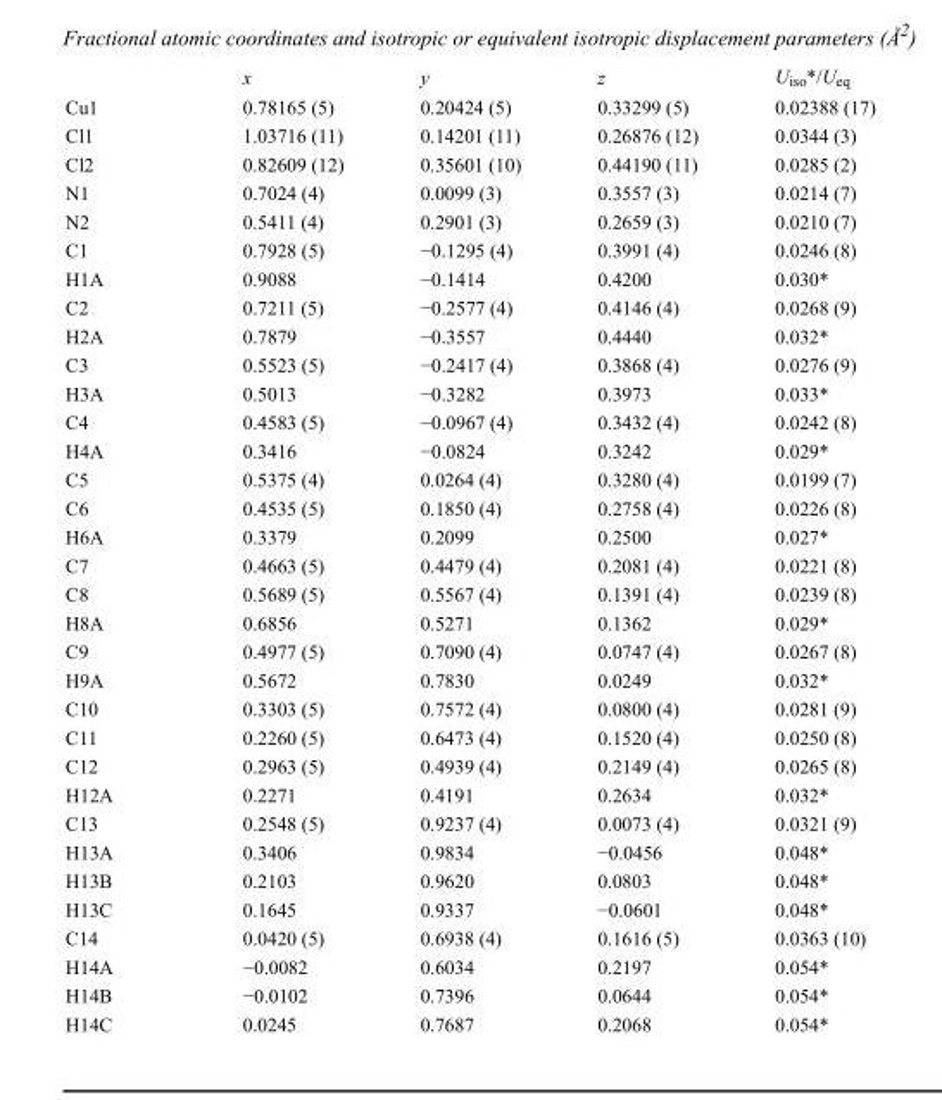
<table><thead><tr><td></td><td>x</td><td>y</td><td>z</td><td>U<sub>iso</sub>*/U<sub>eq</sub></td></tr></thead><tbody><tr><td>Cu1</td><td>0.78165 (5)</td><td>0.20424 (5)</td><td>0.33299 (5)</td><td>0.02388 (17)</td></tr><tr><td>Cl1</td><td>1.03716 (11)</td><td>0.14201 (11)</td><td>0.26876 (12)</td><td>0.0344 (3)</td></tr><tr><td>Cl2</td><td>0.82609 (12)</td><td>0.35601 (10)</td><td>0.44190 (11)</td><td>0.0285 (2)</td></tr><tr><td>N1</td><td>0.7024 (4)</td><td>0.0099 (3)</td><td>0.3557 (3)</td><td>0.0214 (7)</td></tr><tr><td>N2</td><td>0.5411 (4)</td><td>0.2901 (3)</td><td>0.2659 (3)</td><td>0.0210 (7)</td></tr><tr><td>C1</td><td>0.7928 (5)</td><td>−0.1295 (4)</td><td>0.3991 (4)</td><td>0.0246 (8)</td></tr><tr><td>H1A</td><td>0.9088</td><td>−0.1414</td><td>0.4200</td><td>0.030*</td></tr><tr><td>C2</td><td>0.7211 (5)</td><td>−0.2577 (4)</td><td>0.4146 (4)</td><td>0.0268 (9)</td></tr><tr><td>H2A</td><td>0.7879</td><td>−0.3557</td><td>0.4440</td><td>0.032*</td></tr><tr><td>C3</td><td>0.5523 (5)</td><td>−0.2417 (4)</td><td>0.3868 (4)</td><td>0.0276 (9)</td></tr><tr><td>H3A</td><td>0.5013</td><td>−0.3282</td><td>0.3973</td><td>0.033*</td></tr><tr><td>C4</td><td>0.4583 (5)</td><td>−0.0967 (4)</td><td>0.3432 (4)</td><td>0.0242 (8)</td></tr><tr><td>H4A</td><td>0.3416</td><td>−0.0824</td><td>0.3242</td><td>0.029*</td></tr><tr><td>C5</td><td>0.5375 (4)</td><td>0.0264 (4)</td><td>0.3280 (4)</td><td>0.0199 (7)</td></tr><tr><td>C6</td><td>0.4535 (5)</td><td>0.1850 (4)</td><td>0.2758 (4)</td><td>0.0226 (8)</td></tr><tr><td>H6A</td><td>0.3379</td><td>0.2099</td><td>0.2500</td><td>0.027*</td></tr><tr><td>C7</td><td>0.4663 (5)</td><td>0.4479 (4)</td><td>0.2081 (4)</td><td>0.0221 (8)</td></tr><tr><td>C8</td><td>0.5689 (5)</td><td>0.5567 (4)</td><td>0.1391 (4)</td><td>0.0239 (8)</td></tr><tr><td>H8A</td><td>0.6856</td><td>0.5271</td><td>0.1362</td><td>0.029*</td></tr><tr><td>C9</td><td>0.4977 (5)</td><td>0.7090 (4)</td><td>0.0747 (4)</td><td>0.0267 (8)</td></tr><tr><td>H9A</td><td>0.5672</td><td>0.7830</td><td>0.0249</td><td>0.032*</td></tr><tr><td>C10</td><td>0.3303 (5)</td><td>0.7572 (4)</td><td>0.0800 (4)</td><td>0.0281 (9)</td></tr><tr><td>C11</td><td>0.2260 (5)</td><td>0.6473 (4)</td><td>0.1520 (4)</td><td>0.0250 (8)</td></tr><tr><td>C12</td><td>0.2963 (5)</td><td>0.4939 (4)</td><td>0.2149 (4)</td><td>0.0265 (8)</td></tr><tr><td>H12A</td><td>0.2271</td><td>0.4191</td><td>0.2634</td><td>0.032*</td></tr><tr><td>C13</td><td>0.2548 (5)</td><td>0.9237 (4)</td><td>0.0073 (4)</td><td>0.0321 (9)</td></tr><tr><td>H13A</td><td>0.3406</td><td>0.9834</td><td>−0.0456</td><td>0.048*</td></tr><tr><td>H13B</td><td>0.2103</td><td>0.9620</td><td>0.0803</td><td>0.048*</td></tr><tr><td>H13C</td><td>0.1645</td><td>0.9337</td><td>−0.0601</td><td>0.048*</td></tr><tr><td>C14</td><td>0.0420 (5)</td><td>0.6938 (4)</td><td>0.1616 (5)</td><td>0.0363 (10)</td></tr><tr><td>H14A</td><td>−0.0082</td><td>0.6034</td><td>0.2197</td><td>0.054*</td></tr><tr><td>H14B</td><td>−0.0102</td><td>0.7396</td><td>0.0644</td><td>0.054*</td></tr><tr><td>H14C</td><td>0.0245</td><td>0.7687</td><td>0.2068</td><td>0.054*</td></tr></tbody></table>